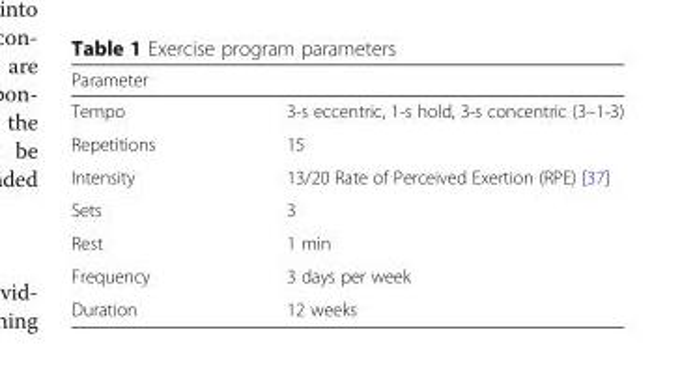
<table><thead><tr><td>Parameter</td><td></td></tr></thead><tbody><tr><td>Tempo</td><td>3-s eccentric, 1-s hold, 3-s concentric (3–1-3)</td></tr><tr><td>Repetitions</td><td>15</td></tr><tr><td>Intensity</td><td>13/20 Rate of Perceived Exertion (RPE) [37]</td></tr><tr><td>Sets</td><td>3</td></tr><tr><td>Rest</td><td>1 min</td></tr><tr><td>Frequency</td><td>3 days per week</td></tr><tr><td>Duration</td><td>12 weeks</td></tr></tbody></table>